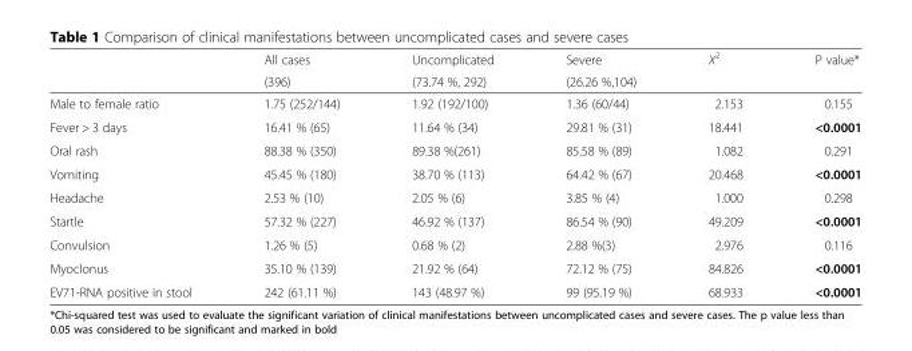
<table><thead><tr><td rowspan="2"></td><td rowspan="2">All cases (396)</td><td rowspan="2">Uncomplicated (73.74 %, 292)</td><td rowspan="2">Severe (26.26 %,104)</td><td rowspan="2">Χ<sup>2</sup></td><td rowspan="2">P value*</td></tr><tr></tr></thead><tbody><tr><td>Male to female ratio</td><td>1.75 (252/144)</td><td>1.92 (192/100)</td><td>1.36 (60/44)</td><td>2.153</td><td>0.155</td></tr><tr><td>Fever &gt; 3 days</td><td>16.41 % (65)</td><td>11.64 % (34)</td><td>29.81 % (31)</td><td>18.441</td><td>&lt;0.0001</td></tr><tr><td>Oral rash</td><td>88.38 % (350)</td><td>89.38 %(261)</td><td>85.58 % (89)</td><td>1.082</td><td>0.291</td></tr><tr><td>Vomiting</td><td>45.45 % (180)</td><td>38.70 % (113)</td><td>64.42 % (67)</td><td>20.468</td><td>&lt;0.0001</td></tr><tr><td>Headache</td><td>2.53 % (10)</td><td>2.05 % (6)</td><td>3.85 % (4)</td><td>1.000</td><td>0.298</td></tr><tr><td>Startle</td><td>57.32 % (227)</td><td>46.92 % (137)</td><td>86.54 % (90)</td><td>49.209</td><td>&lt;0.0001</td></tr><tr><td>Convulsion</td><td>1.26 % (5)</td><td>0.68 % (2)</td><td>2.88 %(3)</td><td>2.976</td><td>0.116</td></tr><tr><td>Myoclonus</td><td>35.10 % (139)</td><td>21.92 % (64)</td><td>72.12 % (75)</td><td>84.826</td><td>&lt;0.0001</td></tr><tr><td>EV71-RNA positive in stool</td><td>242 (61.11 %)</td><td>143 (48.97 %)</td><td>99 (95.19 %)</td><td>68.933</td><td>&lt;0.0001</td></tr></tbody></table>